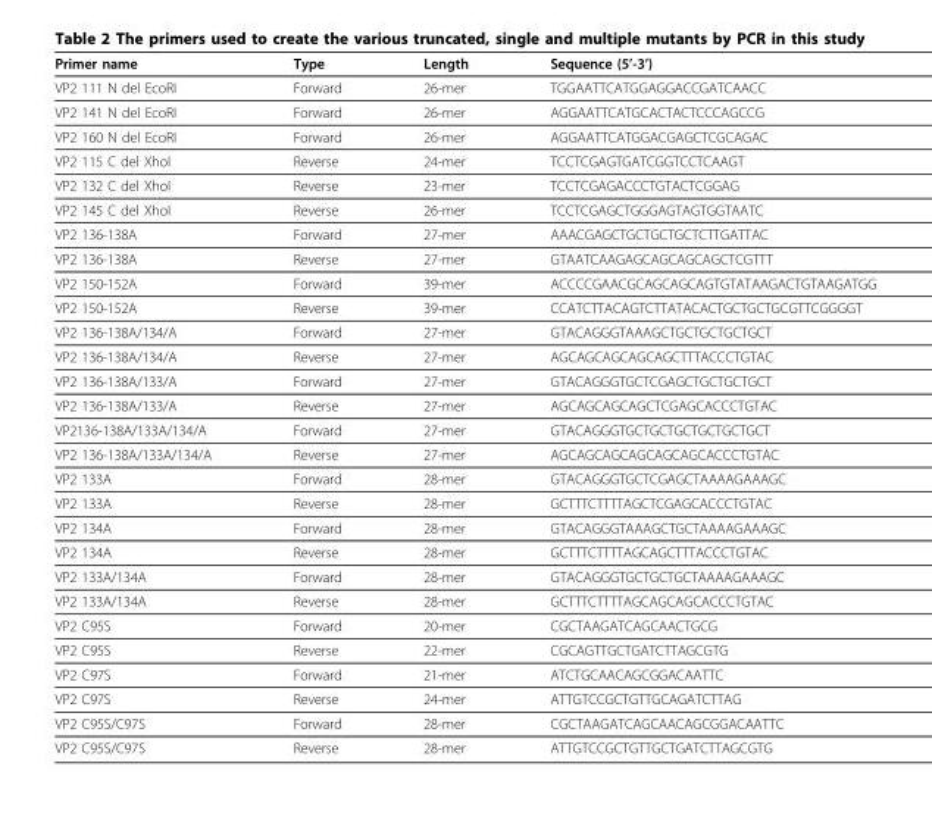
<table><thead><tr><td>Primer name</td><td>Type</td><td>Length</td><td>Sequence (5’-3’)</td></tr></thead><tbody><tr><td>VP2 111 N del EcoRI</td><td>Forward</td><td>26-mer</td><td>TGGAATTCATGGAGGACCGATCAACC</td></tr><tr><td>VP2 141 N del EcoRI</td><td>Forward</td><td>26-mer</td><td>AGGAATTCATGCACTACTCCCAGCCG</td></tr><tr><td>VP2 160 N del EcoRI</td><td>Forward</td><td>26-mer</td><td>AGGAATTCATGGACGAGCTCGCAGAC</td></tr><tr><td>VP2 115 C del XhoI</td><td>Reverse</td><td>24-mer</td><td>TCCTCGAGTGATCGGTCCTCAAGT</td></tr><tr><td>VP2 132 C del XhoI</td><td>Reverse</td><td>23-mer</td><td>TCCTCGAGACCCTGTACTCGGAG</td></tr><tr><td>VP2 145 C del XhoI</td><td>Reverse</td><td>26-mer</td><td>TCCTCGAGCTGGGAGTAGTGGTAATC</td></tr><tr><td>VP2 136-138A</td><td>Forward</td><td>27-mer</td><td>AAACGAGCTGCTGCTGCTCTTGATTAC</td></tr><tr><td>VP2 136-138A</td><td>Reverse</td><td>27-mer</td><td>GTAATCAAGAGCAGCAGCAGCTCGTTT</td></tr><tr><td>VP2 150-152A</td><td>Forward</td><td>39-mer</td><td>ACCCCGAACGCAGCAGCAGTGTATAAGACTGTAAGATGG</td></tr><tr><td>VP2 150-152A</td><td>Reverse</td><td>39-mer</td><td>CCATCTTACAGTCTTATACACTGCTGCTGCGTTCGGGGT</td></tr><tr><td>VP2 136-138A/134/A</td><td>Forward</td><td>27-mer</td><td>GTACAGGGTAAAGCTGCTGCTGCTGCT</td></tr><tr><td>VP2 136-138A/134/A</td><td>Reverse</td><td>27-mer</td><td>AGCAGCAGCAGCAGCTTTACCCTGTAC</td></tr><tr><td>VP2 136-138A/133/A</td><td>Forward</td><td>27-mer</td><td>GTACAGGGTGCTCGAGCTGCTGCTGCT</td></tr><tr><td>VP2 136-138A/133/A</td><td>Reverse</td><td>27-mer</td><td>AGCAGCAGCAGCTCGAGCACCCTGTAC</td></tr><tr><td>VP2136-138A/133A/134/A</td><td>Forward</td><td>27-mer</td><td>GTACAGGGTGCTGCTGCTGCTGCTGCT</td></tr><tr><td>VP2 136-138A/133A/134/A</td><td>Reverse</td><td>27-mer</td><td>AGCAGCAGCAGCAGCAGCACCCTGTAC</td></tr><tr><td>VP2 133A</td><td>Forward</td><td>28-mer</td><td>GTACAGGGTGCTCGAGCTAAAAGAAAGC</td></tr><tr><td>VP2 133A</td><td>Reverse</td><td>28-mer</td><td>GCTTTCTTTTAGCTCGAGCACCCTGTAC</td></tr><tr><td>VP2 134A</td><td>Forward</td><td>28-mer</td><td>GTACAGGGTAAAGCTGCTAAAAGAAAGC</td></tr><tr><td>VP2 134A</td><td>Reverse</td><td>28-mer</td><td>GCTTTCTTTTAGCAGCTTTACCCTGTAC</td></tr><tr><td>VP2 133A/134A</td><td>Forward</td><td>28-mer</td><td>GTACAGGGTGCTGCTGCTAAAAGAAAGC</td></tr><tr><td>VP2 133A/134A</td><td>Reverse</td><td>28-mer</td><td>GCTTTCTTTTAGCAGCAGCACCCTGTAC</td></tr><tr><td>VP2 C95S</td><td>Forward</td><td>20-mer</td><td>CGCTAAGATCAGCAACTGCG</td></tr><tr><td>VP2 C95S</td><td>Reverse</td><td>22-mer</td><td>CGCAGTTGCTGATCTTAGCGTG</td></tr><tr><td>VP2 C97S</td><td>Forward</td><td>21-mer</td><td>ATCTGCAACAGCGGACAATTC</td></tr><tr><td>VP2 C97S</td><td>Reverse</td><td>24-mer</td><td>ATTGTCCGCTGTTGCAGATCTTAG</td></tr><tr><td>VP2 C95S/C97S</td><td>Forward</td><td>28-mer</td><td>CGCTAAGATCAGCAACAGCGGACAATTC</td></tr><tr><td>VP2 C95S/C97S</td><td>Reverse</td><td>28-mer</td><td>ATTGTCCGCTGTTGCTGATCTTAGCGTG</td></tr></tbody></table>